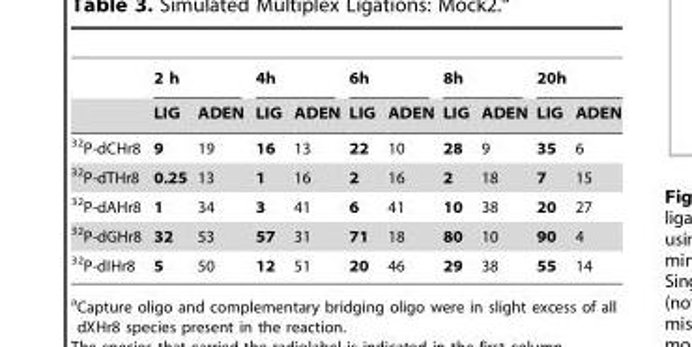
<table><thead><tr><td rowspan="2"></td><td colspan="2">2 h</td><td colspan="2">4h</td><td colspan="2">6h</td><td colspan="2">8h</td><td colspan="2">20h</td></tr><tr><td>LIG</td><td>ADEN</td><td>LIG</td><td>ADEN</td><td>LIG</td><td>ADEN</td><td>LIG</td><td>ADEN</td><td>LIG</td><td>ADEN</td></tr></thead><tbody><tr><td><sup>32</sup>P-dCHr8</td><td>9</td><td>19</td><td>16</td><td>13</td><td>22</td><td>10</td><td>28</td><td>9</td><td>35</td><td>6</td></tr><tr><td><sup>32</sup>P-dTHr8</td><td>0.25</td><td>13</td><td>1</td><td>16</td><td>2</td><td>16</td><td>2</td><td>18</td><td>7</td><td>15</td></tr><tr><td><sup>32</sup>P-dAHr8</td><td>1</td><td>34</td><td>3</td><td>41</td><td>6</td><td>41</td><td>10</td><td>38</td><td>20</td><td>27</td></tr><tr><td><sup>32</sup>P-dGHr8</td><td>32</td><td>53</td><td>57</td><td>31</td><td>71</td><td>18</td><td>80</td><td>10</td><td>90</td><td>4</td></tr><tr><td><sup>32</sup>P-dIHr8</td><td>5</td><td>50</td><td>12</td><td>51</td><td>20</td><td>46</td><td>29</td><td>38</td><td>55</td><td>14</td></tr></tbody></table>